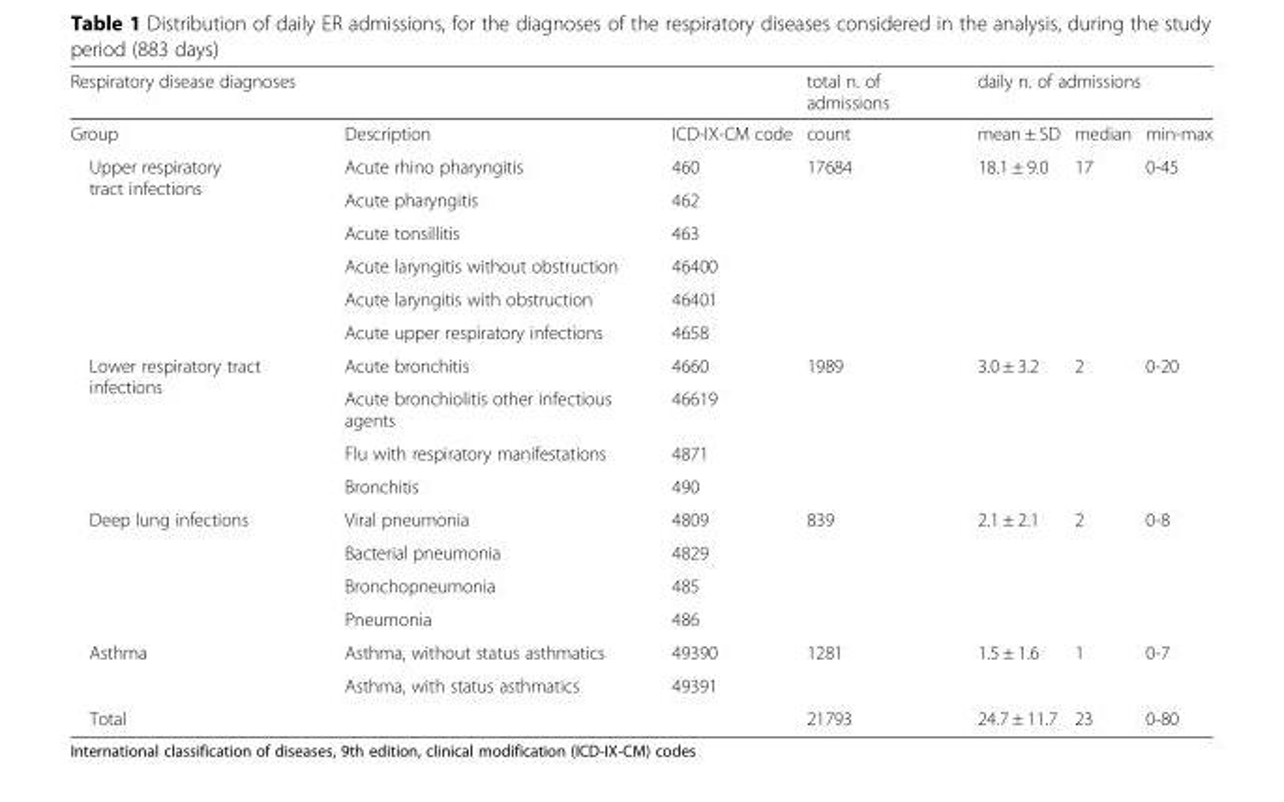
<table><thead><tr><td colspan="3">Respiratory disease diagnoses</td><td rowspan="2">total n. of admissions count</td><td colspan="3">daily n. of admissions</td></tr><tr><td>Group</td><td>Description</td><td>ICD-IX-CM code</td><td>mean ± SD</td><td>median</td><td>min-max</td></tr></thead><tbody><tr><td rowspan="6">Upper respiratory tract infections</td><td>Acute rhino pharyngitis</td><td>460</td><td rowspan="6">17684</td><td rowspan="6">18.1 ± 9.0</td><td rowspan="6">17</td><td rowspan="6">0-45</td></tr><tr><td>Acute pharyngitis</td><td>462</td></tr><tr><td>Acute tonsillitis</td><td>463</td></tr><tr><td>Acute laryngitis without obstruction</td><td>46400</td></tr><tr><td>Acute laryngitis with obstruction</td><td>46401</td></tr><tr><td>Acute upper respiratory infections</td><td>4658</td></tr><tr><td rowspan="4">Lower respiratory tract infections</td><td>Acute bronchitis</td><td>4660</td><td rowspan="4">1989</td><td rowspan="4">3.0 ± 3.2</td><td rowspan="4">2</td><td rowspan="4">0-20</td></tr><tr><td>Acute bronchiolitis other infectious agents</td><td>46619</td></tr><tr><td>Flu with respiratory manifestations</td><td>4871</td></tr><tr><td>Bronchitis</td><td>490</td></tr><tr><td rowspan="4">Deep lung infections</td><td>Viral pneumonia</td><td>4809</td><td rowspan="4">839</td><td rowspan="4">2.1 ± 2.1</td><td rowspan="4">2</td><td rowspan="4">0-8</td></tr><tr><td>Bacterial pneumonia</td><td>4829</td></tr><tr><td>Bronchopneumonia</td><td>485</td></tr><tr><td>Pneumonia</td><td>486</td></tr><tr><td rowspan="2">Asthma</td><td>Asthma, without status asthmatics</td><td>49390</td><td rowspan="2">1281</td><td rowspan="2">1.5 ± 1.6</td><td rowspan="2">1</td><td rowspan="2">0-7</td></tr><tr><td>Asthma, with status asthmatics</td><td>49391</td></tr><tr><td>Total</td><td></td><td></td><td>21793</td><td>24.7 ± 11.7</td><td>23</td><td>0-80</td></tr></tbody></table>